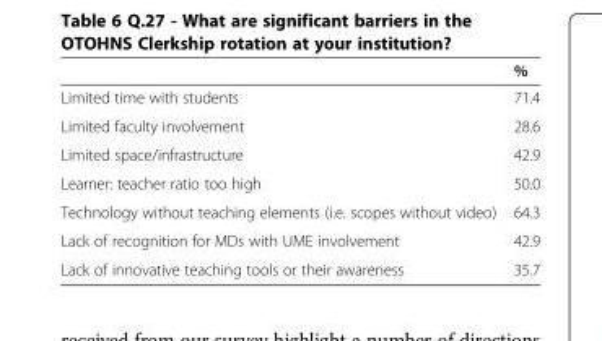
<table><thead><tr><td></td><td>%</td></tr></thead><tbody><tr><td>Limited time with students</td><td>71.4</td></tr><tr><td>Limited faculty involvement</td><td>28.6</td></tr><tr><td>Limited space/infrastructure</td><td>42.9</td></tr><tr><td>Learner: teacher ratio too high</td><td>50.0</td></tr><tr><td>Technology without teaching elements (i.e. scopes without video)</td><td>64.3</td></tr><tr><td>Lack of recognition for MDs with UME involvement</td><td>42.9</td></tr><tr><td>Lack of innovative teaching tools or their awareness</td><td>35.7</td></tr></tbody></table>